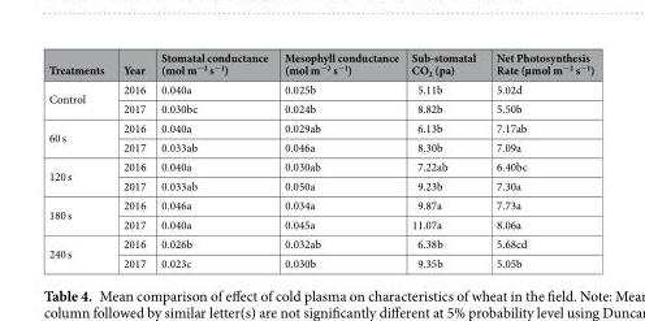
<table><thead><tr><td>Treatments</td><td>Year</td><td>Stomatal conductance (mol m<sup>−2</sup> s<sup>−1</sup>)</td><td>Mesophyll conductance (mol m<sup>−2</sup> s<sup>−1</sup>)</td><td>Sub-stomatal CO<sub>2</sub> (pa)</td><td>Net Photosynthesis Rate (µmol m<sup>−2</sup> s<sup>−1</sup>)</td></tr></thead><tbody><tr><td rowspan="2">Control</td><td>2016</td><td>0.040a</td><td>0.025b</td><td>5.11b</td><td>5.02d</td></tr><tr><td>2017</td><td>0.030bc</td><td>0.024b</td><td>8.82b</td><td>5.50b</td></tr><tr><td rowspan="2">60 s</td><td>2016</td><td>0.040a</td><td>0.029ab</td><td>6.13b</td><td>7.17ab</td></tr><tr><td>2017</td><td>0.033ab</td><td>0.046a</td><td>8.30b</td><td>7.09a</td></tr><tr><td rowspan="2">120 s</td><td>2016</td><td>0.040a</td><td>0.030ab</td><td>7.22ab</td><td>6.40bc</td></tr><tr><td>2017</td><td>0.033ab</td><td>0.050a</td><td>9.23b</td><td>7.30a</td></tr><tr><td rowspan="2">180 s</td><td>2016</td><td>0.046a</td><td>0.034a</td><td>9.87a</td><td>7.73a</td></tr><tr><td>2017</td><td>0.040a</td><td>0.045a</td><td>11.07a</td><td>8.06a</td></tr><tr><td rowspan="2">240 s</td><td>2016</td><td>0.026b</td><td>0.032ab</td><td>6.38b</td><td>5.68cd</td></tr><tr><td>2017</td><td>0.023c</td><td>0.030b</td><td>9.35b</td><td>5.05b</td></tr></tbody></table>